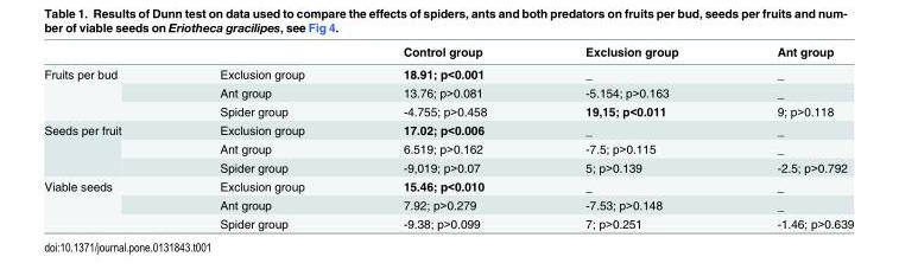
<table><thead><tr><td></td><td></td><td>Control group</td><td>Exclusion group</td><td>Ant group</td></tr></thead><tbody><tr><td rowspan="3">Fruits per bud</td><td>Exclusion group</td><td>18.91; p&lt;0.001</td><td>_</td><td>_</td></tr><tr><td>Ant group</td><td>13.76; p&gt;0.081</td><td>-5.154; p&gt;0.163</td><td>_</td></tr><tr><td>Spider group</td><td>-4.755; p&gt;0.458</td><td>19,15; p&lt;0.011</td><td>9; p&gt;0.118</td></tr><tr><td rowspan="3">Seeds per fruit</td><td>Exclusion group</td><td>17.02; p&lt;0.006</td><td>_</td><td>_</td></tr><tr><td>Ant group</td><td>6.519; p&gt;0.162</td><td>-7.5; p&gt;0.115</td><td>_</td></tr><tr><td>Spider group</td><td>-9,019; p&gt;0.07</td><td>5; p&gt;0.139</td><td>-2.5; p&gt;0.792</td></tr><tr><td rowspan="3">Viable seeds</td><td>Exclusion group</td><td>15.46; p&lt;0.010</td><td>_</td><td>_</td></tr><tr><td>Ant group</td><td>7.92; p&gt;0.279</td><td>-7.53; p&gt;0.148</td><td>_</td></tr><tr><td>Spider group</td><td>-9.38; p&gt;0.099</td><td>7; p&gt;0.251</td><td>-1.46; p&gt;0.639</td></tr></tbody></table>